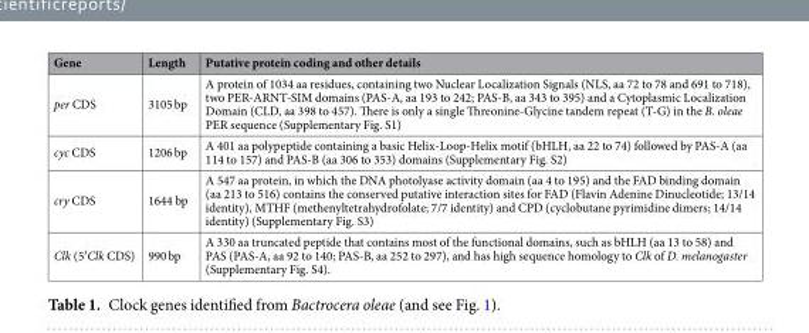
<table><thead><tr><td>Gene</td><td>Length</td><td>Putative protein coding and other details</td></tr></thead><tbody><tr><td>per CDS</td><td>3105 bp</td><td>A protein of 1034 aa residues, containing two Nuclear Localization Signals (NLS, aa 72 to 78 and 691 to 718), two PER-ARNT-SIM domains (PAS-A, aa 193 to 242; PAS-B, aa 343 to 395) and a Cytoplasmic Localization Domain (CLD, aa 398 to 457). There is only a single Threonine-Glycine tandem repeat (T-G) in the B. oleae PER sequence (Supplementary Fig. S1)</td></tr><tr><td>cyc CDS</td><td>1206 bp</td><td>A 401 aa polypeptide containing a basic Helix-Loop-Helix motif (bHLH, aa 22 to 74) followed by PAS-A (aa 114 to 157) and PAS-B (aa 306 to 353) domains (Supplementary Fig. S2)</td></tr><tr><td>cry CDS</td><td>1644 bp</td><td>A 547 aa protein, in which the DNA photolyase activity domain (aa 4 to 195) and the FAD binding domain (aa 213 to 516) contains the conserved putative interaction sites for FAD (Flavin Adenine Dinucleotide; 13/14 identity), MTHF (methenyltetrahydrofolate; 7/7 identity) and CPD (cyclobutane pyrimidine dimers; 14/14 identity) (Supplementary Fig. S3)</td></tr><tr><td>Clk (5′Clk CDS)</td><td>990 bp</td><td>A 330 aa truncated peptide that contains most of the functional domains, such as bHLH (aa 13 to 58) and PAS (PAS-A, aa 92 to 140; PAS-B, aa 252 to 297), and has high sequence homology to Clk of D. melanogaster (Supplementary Fig. S4).</td></tr></tbody></table>